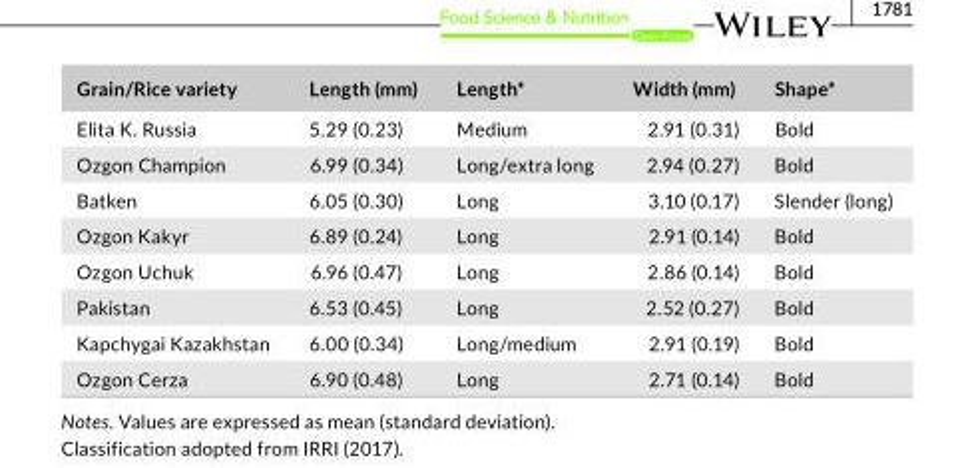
<table><thead><tr><td>Grain/Rice variety</td><td>Length (mm)</td><td>Length*</td><td>Width (mm)</td><td>Shape*</td></tr></thead><tbody><tr><td>Elita K. Russia</td><td>5.29 (0.23)</td><td>Medium</td><td>2.91 (0.31)</td><td>Bold</td></tr><tr><td>Ozgon Champion</td><td>6.99 (0.34)</td><td>Long/extra long</td><td>2.94 (0.27)</td><td>Bold</td></tr><tr><td>Batken</td><td>6.05 (0.30)</td><td>Long</td><td>3.10 (0.17)</td><td>Slender (long)</td></tr><tr><td>Ozgon Kakyr</td><td>6.89 (0.24)</td><td>Long</td><td>2.91 (0.14)</td><td>Bold</td></tr><tr><td>Ozgon Uchuk</td><td>6.96 (0.47)</td><td>Long</td><td>2.86 (0.14)</td><td>Bold</td></tr><tr><td>Pakistan</td><td>6.53 (0.45)</td><td>Long</td><td>2.52 (0.27)</td><td>Bold</td></tr><tr><td>Kapchygai Kazakhstan</td><td>6.00 (0.34)</td><td>Long/medium</td><td>2.91 (0.19)</td><td>Bold</td></tr><tr><td>Ozgon Cerza</td><td>6.90 (0.48)</td><td>Long</td><td>2.71 (0.14)</td><td>Bold</td></tr></tbody></table>